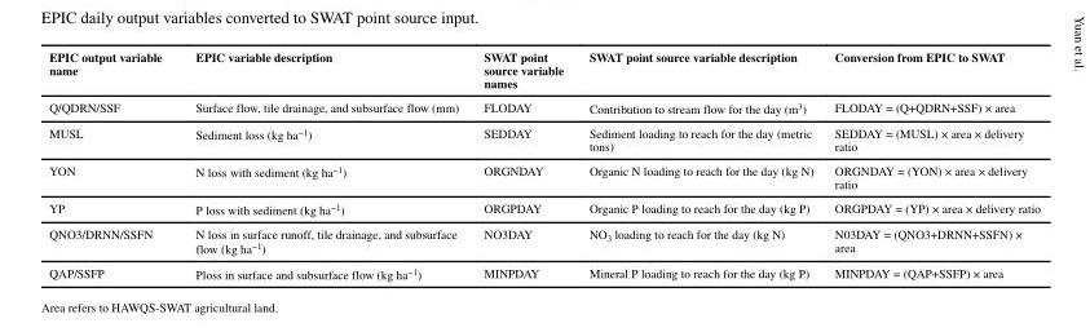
<table><thead><tr><td>EPIC output variable name</td><td>EPIC variable description</td><td>SWAT point source variable names</td><td>SWAT point source variable description</td><td>Conversion from EPIC to SWAT</td></tr></thead><tbody><tr><td>Q/QDRN/SSF</td><td>Surface flow, tile drainage, and subsurface flow (mm)</td><td>FLODAY</td><td>Contribution to stream flow for the day (m<sup>3</sup>)</td><td>FLODAY = (Q+QDRN+SSF) × area</td></tr><tr><td>MUSL</td><td>Sediment loss (kg ha<sup>−1</sup>)</td><td>SEDDAY</td><td>Sediment loading to reach for the day (metric tons)</td><td>SEDDAY = (MUSL) × area × delivery ratio</td></tr><tr><td>YON</td><td>N loss with sediment (kg ha<sup>−1</sup>)</td><td>ORGNDAY</td><td>Organic N loading to reach for the day (kg N)</td><td>ORGNDAY = (YON) × area × delivery ratio</td></tr><tr><td>YP</td><td>P loss with sediment (kg ha<sup>−1</sup>)</td><td>ORGPDAY</td><td>Organic P loading to reach for the day (kg P)</td><td>ORGPDAY = (YP) × area × delivery ratio</td></tr><tr><td>QNO3/DRNN/SSFN</td><td>N loss in surface runoff, tile drainage, and subsurface flow (kg ha<sup>−1</sup>)</td><td>NO3DAY</td><td>NO<sub>3</sub> loading to reach for the day (kg N)</td><td>N03DAY = (QNO3+DRNN+SSFN) × area</td></tr><tr><td>QAP/SSFP</td><td>Ploss in surface and subsurface flow (kg ha<sup>−1</sup>)</td><td>MINPDAY</td><td>Mineral P loading to reach for the day (kg P)</td><td>MINPDAY = (QAP+SSFP) × area</td></tr></tbody></table>